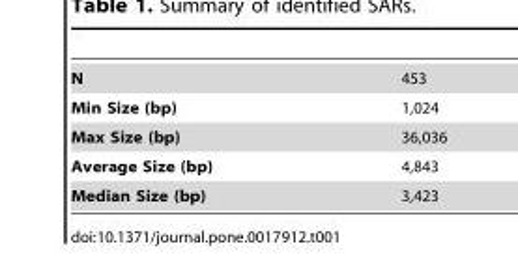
<table><tbody><tr><td>N</td><td>453</td></tr><tr><td>Min Size (bp)</td><td>1,024</td></tr><tr><td>Max Size (bp)</td><td>36,036</td></tr><tr><td>Average Size (bp)</td><td>4,843</td></tr><tr><td>Median Size (bp)</td><td>3,423</td></tr></tbody></table>